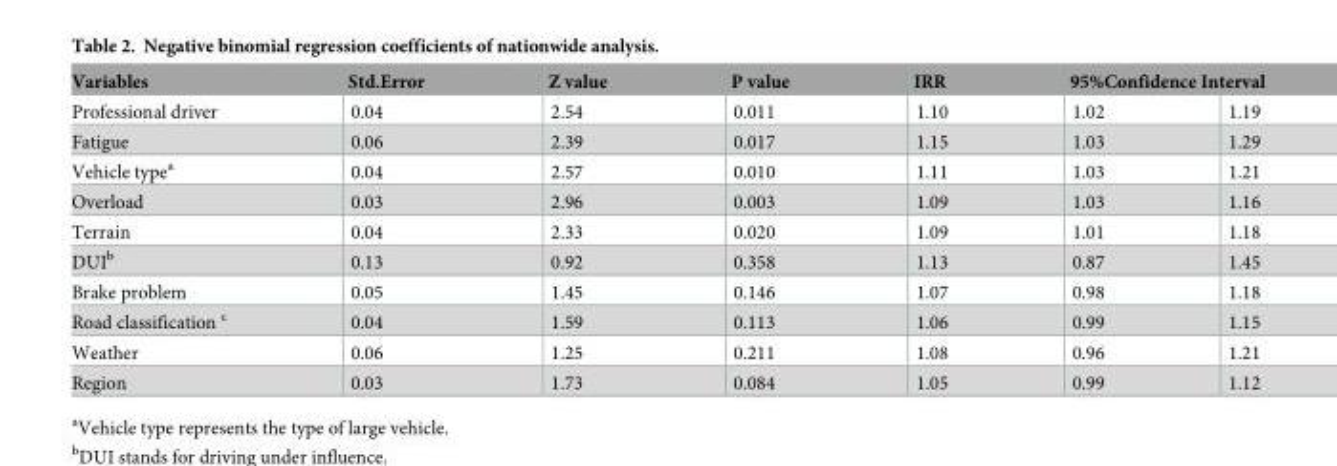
<table><thead><tr><td rowspan="2">Variables Professional driver</td><td rowspan="2">Std.Error 0.04</td><td rowspan="2">Z value 2.54</td><td rowspan="2">P value 0.011</td><td rowspan="2">IRR 1.10</td><td colspan="2">95%Confidence Interval</td></tr><tr><td>1.02</td><td>1.19</td></tr></thead><tbody><tr><td>Fatigue</td><td>0.06</td><td>2.39</td><td>0.017</td><td>1.15</td><td>1.03</td><td>1.29</td></tr><tr><td>Vehicle type<sup>a</sup></td><td>0.04</td><td>2.57</td><td>0.010</td><td>1.11</td><td>1.03</td><td>1.21</td></tr><tr><td>Overload</td><td>0.03</td><td>2.96</td><td>0.003</td><td>1.09</td><td>1.03</td><td>1.16</td></tr><tr><td>Terrain</td><td>0.04</td><td>2.33</td><td>0.020</td><td>1.09</td><td>1.01</td><td>1.18</td></tr><tr><td>DUI<sup>b</sup></td><td>0.13</td><td>0.92</td><td>0.358</td><td>1.13</td><td>0.87</td><td>1.45</td></tr><tr><td>Brake problem</td><td>0.05</td><td>1.45</td><td>0.146</td><td>1.07</td><td>0.98</td><td>1.18</td></tr><tr><td>Road classification <sup>c</sup></td><td>0.04</td><td>1.59</td><td>0.113</td><td>1.06</td><td>0.99</td><td>1.15</td></tr><tr><td>Weather</td><td>0.06</td><td>1.25</td><td>0.211</td><td>1.08</td><td>0.96</td><td>1.21</td></tr><tr><td>Region</td><td>0.03</td><td>1.73</td><td>0.084</td><td>1.05</td><td>0.99</td><td>1.12</td></tr></tbody></table>